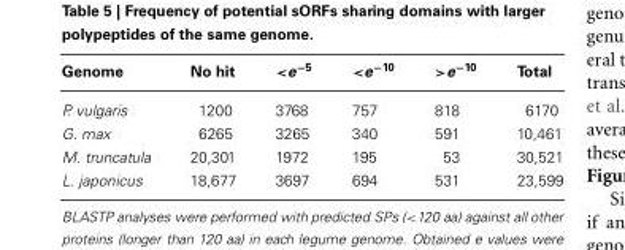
<table><thead><tr><td>Genome</td><td>No hit</td><td>&lt;e<sup>−5</sup></td><td>&lt;e<sup>−10</sup></td><td>&gt;e<sup>−10</sup></td><td>Total</td></tr></thead><tbody><tr><td>P. vulgaris</td><td>1200</td><td>3768</td><td>757</td><td>818</td><td>6170</td></tr><tr><td>G. max</td><td>6265</td><td>3265</td><td>340</td><td>591</td><td>10,461</td></tr><tr><td>M. truncatula</td><td>20,301</td><td>1972</td><td>195</td><td>53</td><td>30,521</td></tr><tr><td>L. japonicus</td><td>18,677</td><td>3697</td><td>694</td><td>531</td><td>23,599</td></tr></tbody></table>